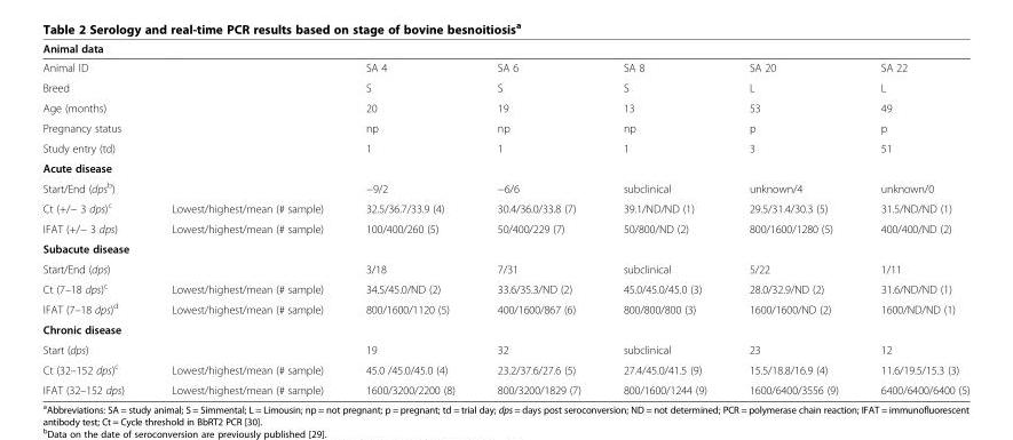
<table><thead><tr><td>Animal data</td><td></td><td></td><td></td><td></td><td></td><td></td></tr></thead><tbody><tr><td>Animal ID</td><td></td><td>SA 4</td><td>SA 6</td><td>SA 8</td><td>SA 20</td><td>SA 22</td></tr><tr><td>Breed</td><td></td><td>S</td><td>S</td><td>S</td><td>L</td><td>L</td></tr><tr><td>Age (months)</td><td></td><td>20</td><td>19</td><td>13</td><td>53</td><td>49</td></tr><tr><td>Pregnancy status</td><td></td><td>np</td><td>np</td><td>np</td><td>p</td><td>p</td></tr><tr><td>Study entry (td)</td><td></td><td>1</td><td>1</td><td>1</td><td>3</td><td>51</td></tr><tr><td colspan="7">Acute disease</td></tr><tr><td>Start/End (dps<sup>b</sup>)</td><td></td><td>−9/2</td><td>−6/6</td><td>subclinical</td><td>unknown/4</td><td>unknown/0</td></tr><tr><td>Ct (+/− 3 dps)<sup>c</sup></td><td>Lowest/highest/mean (# sample)</td><td>32.5/36.7/33.9 (4)</td><td>30.4/36.0/33.8 (7)</td><td>39.1/ND/ND (1)</td><td>29.5/31.4/30.3 (5)</td><td>31.5/ND/ND (1)</td></tr><tr><td>IFAT (+/− 3 dps)</td><td>Lowest/highest/mean (# sample)</td><td>100/400/260 (5)</td><td>50/400/229 (7)</td><td>50/800/ND (2)</td><td>800/1600/1280 (5)</td><td>400/400/ND (2)</td></tr><tr><td colspan="7">Subacute disease</td></tr><tr><td>Start/End (dps)</td><td></td><td>3/18</td><td>7/31</td><td>subclinical</td><td>5/22</td><td>1/11</td></tr><tr><td>Ct (7–18 dps)<sup>c</sup></td><td>Lowest/highest/mean (# sample)</td><td>34.5/45.0/ND (2)</td><td>33.6/35.3/ND (2)</td><td>45.0/45.0/45.0 (3)</td><td>28.0/32.9/ND (2)</td><td>31.6/ND/ND (1)</td></tr><tr><td>IFAT (7–18 dps)<sup>d</sup></td><td>Lowest/highest/mean (# sample)</td><td>800/1600/1120 (5)</td><td>400/1600/867 (6)</td><td>800/800/800 (3)</td><td>1600/1600/ND (2)</td><td>1600/ND/ND (1)</td></tr><tr><td colspan="7">Chronic disease</td></tr><tr><td>Start (dps)</td><td></td><td>19</td><td>32</td><td>subclinical</td><td>23</td><td>12</td></tr><tr><td>Ct (32–152 dps)<sup>c</sup></td><td>Lowest/highest/mean (# sample)</td><td>45.0 /45.0/45.0 (4)</td><td>23.2/37.6/27.6 (5)</td><td>27.4/45.0/41.5 (9)</td><td>15.5/18.8/16.9 (4)</td><td>11.6/19.5/15.3 (3)</td></tr><tr><td>IFAT (32–152 dps)</td><td>Lowest/highest/mean (# sample)</td><td>1600/3200/2200 (8)</td><td>800/3200/1829 (7)</td><td>800/1600/1244 (9)</td><td>1600/6400/3556 (9)</td><td>6400/6400/6400 (5)</td></tr></tbody></table>